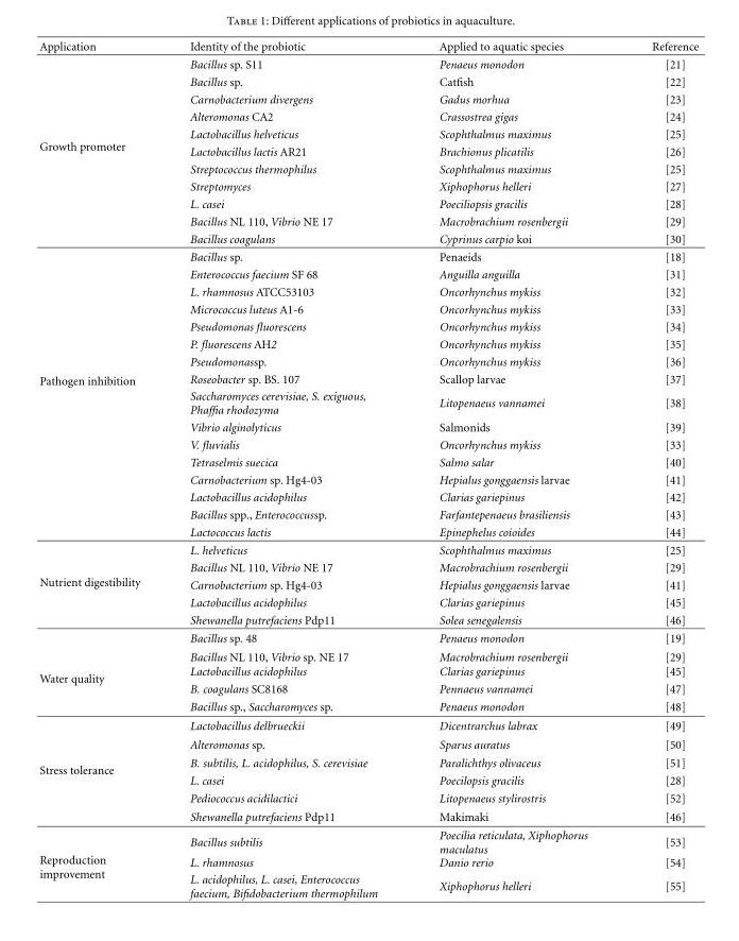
<table><thead><tr><td>Application</td><td>Identity of the probiotic</td><td>Applied to aquatic species</td><td>Reference</td></tr></thead><tbody><tr><td rowspan="11">Growth promoter</td><td>Bacillus sp. S11</td><td>Penaeus monodon</td><td>[21]</td></tr><tr><td>Bacillus sp.</td><td>Catfish</td><td>[22]</td></tr><tr><td>Carnobacterium divergens</td><td>Gadus morhua</td><td>[23]</td></tr><tr><td>Alteromonas CA2</td><td>Crassostrea gigas</td><td>[24]</td></tr><tr><td>Lactobacillus helveticus</td><td>Scophthalmus maximus</td><td>[25]</td></tr><tr><td>Lactobacillus lactis AR21</td><td>Brachionus plicatilis</td><td>[26]</td></tr><tr><td>Streptococcus thermophilus</td><td>Scophthalmus maximus</td><td>[25]</td></tr><tr><td>Streptomyces</td><td>Xiphophorus helleri</td><td>[27]</td></tr><tr><td>L. casei</td><td>Poeciliopsis gracilis</td><td>[28]</td></tr><tr><td>Bacillus NL 110, Vibrio NE 17</td><td>Macrobrachium rosenbergii</td><td>[29]</td></tr><tr><td>Bacillus coagulans</td><td>Cyprinus carpio koi</td><td>[30]</td></tr><tr><td rowspan="16">Pathogen inhibition</td><td>Bacillus sp.</td><td>Penaeids</td><td>[18]</td></tr><tr><td>Enterococcus faecium SF 68</td><td>Anguilla anguilla</td><td>[31]</td></tr><tr><td>L. rhamnosus ATCC53103</td><td>Oncorhynchus mykiss</td><td>[32]</td></tr><tr><td>Micrococcus luteus A1-6</td><td>Oncorhynchus mykiss</td><td>[33]</td></tr><tr><td>Pseudomonas fluorescens</td><td>Oncorhynchus mykiss</td><td>[34]</td></tr><tr><td>P. fluorescens AH2</td><td>Oncorhynchus mykiss</td><td>[35]</td></tr><tr><td>Pseudomonassp.</td><td>Oncorhynchus mykiss</td><td>[36]</td></tr><tr><td>Roseobacter sp. BS. 107</td><td>Scallop larvae</td><td>[37]</td></tr><tr><td>Saccharomyces cerevisiae, S. exiguous, Phaffia rhodozyma</td><td>Litopenaeus vannamei</td><td>[38]</td></tr><tr><td>Vibrio alginolyticus</td><td>Salmonids</td><td>[39]</td></tr><tr><td>V. fluvialis</td><td>Oncorhynchus mykiss</td><td>[33]</td></tr><tr><td>Tetraselmis suecica</td><td>Salmo salar</td><td>[40]</td></tr><tr><td>Carnobacterium sp. Hg4-03</td><td>Hepialus gonggaensis larvae</td><td>[41]</td></tr><tr><td>Lactobacillus acidophilus</td><td>Clarias gariepinus</td><td>[42]</td></tr><tr><td>Bacillus spp., Enterococcussp.</td><td>Farfantepenaeus brasiliensis</td><td>[43]</td></tr><tr><td>Lactococcus lactis</td><td>Epinephelus coioides</td><td>[44]</td></tr><tr><td rowspan="7">Nutrient digestibility</td><td>L. helveticus</td><td>Scophthalmus maximus</td><td>[25]</td></tr><tr><td>Bacillus NL 110, Vibrio NE 17</td><td>Macrobrachium rosenbergii</td><td>[29]</td></tr><tr><td>Carnobacterium sp. Hg4-03</td><td>Hepialus gonggaensis larvae</td><td>[41]</td></tr><tr><td>Lactobacillus acidophilus</td><td>Clarias gariepinus</td><td>[45]</td></tr><tr><td>Shewanella putrefaciens Pdp11</td><td>Solea senegalensis</td><td>[46]</td></tr><tr><td>Bacillus sp. 48</td><td>Penaeus monodon</td><td>[19]</td></tr><tr><td>Bacillus NL 110, Vibrio sp. NE 17</td><td>Macrobrachium rosenbergii</td><td>[29]</td></tr><tr><td rowspan="5">Water quality</td><td>Lactobacillus acidophilus</td><td>Clarias gariepinus</td><td>[45]</td></tr><tr><td>B. coagulans SC8168</td><td>Pennaeus vannamei</td><td>[47]</td></tr><tr><td>Bacillus sp., Saccharomyces sp.</td><td>Penaeus monodon</td><td>[48]</td></tr><tr><td>Lactobacillus delbrueckii</td><td>Dicentrarchus labrax</td><td>[49]</td></tr><tr><td>Alteromonas sp.</td><td>Sparus auratus</td><td>[50]</td></tr><tr><td rowspan="4">Stress tolerance</td><td>B. subtilis, L. acidophilus, S. cerevisiae</td><td>Paralichthys olivaceus</td><td>[51]</td></tr><tr><td>L. casei</td><td>Poecilopsis gracilis</td><td>[28]</td></tr><tr><td>Pediococcus acidilactici</td><td>Litopenaeus stylirostris</td><td>[52]</td></tr><tr><td>Shewanella putrefaciens Pdp11</td><td>Makimaki</td><td>[46]</td></tr><tr><td rowspan="3">Reproduction improvement</td><td>Bacillus subtilis</td><td>Poecilia reticulata, Xiphophorus maculatus</td><td>[53]</td></tr><tr><td>L. rhamnosus</td><td>Danio rerio</td><td>[54]</td></tr><tr><td>L. acidophilus, L. casei, Enterococcus faecium, Bifidobacterium thermophilum</td><td>Xiphophorus helleri</td><td>[55]</td></tr></tbody></table>